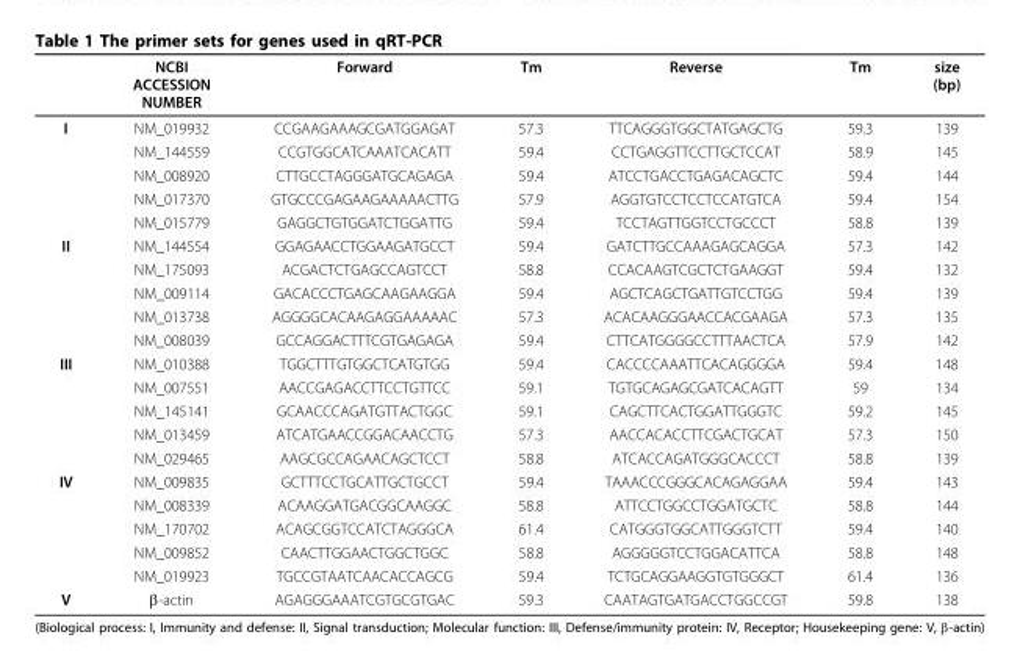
<table><thead><tr><td></td><td>NCBI ACCESSION NUMBER</td><td>Forward</td><td>Tm</td><td>Reverse</td><td>Tm</td><td>size (bp)</td></tr></thead><tbody><tr><td rowspan="5">I</td><td>NM_019932</td><td>CCGAAGAAAGCGATGGAGAT</td><td>57.3</td><td>TTCAGGGTGGCTATGAGCTG</td><td>59.3</td><td>139</td></tr><tr><td>NM_144559</td><td>CCGTGGCATCAAATCACATT</td><td>59.4</td><td>CCTGAGGTTCCTTGCTCCAT</td><td>58.9</td><td>145</td></tr><tr><td>NM_008920</td><td>CTTGCCTAGGGATGCAGAGA</td><td>59.4</td><td>ATCCTGACCTGAGACAGCTC</td><td>59.4</td><td>144</td></tr><tr><td>NM_017370</td><td>GTGCCCGAGAAGAAAAACTTG</td><td>57.9</td><td>AGGTGTCCTCCTCCATGTCA</td><td>59.4</td><td>154</td></tr><tr><td>NM_015779</td><td>GAGGCTGTGGATCTGGATTG</td><td>59.4</td><td>TCCTAGTTGGTCCTGCCCT</td><td>58.8</td><td>139</td></tr><tr><td rowspan="5">II</td><td>NM_144554</td><td>GGAGAACCTGGAAGATGCCT</td><td>59.4</td><td>GATCTTGCCAAAGAGCAGGA</td><td>57.3</td><td>142</td></tr><tr><td>NM_175093</td><td>ACGACTCTGAGCCAGTCCT</td><td>58.8</td><td>CCACAAGTCGCTCTGAAGGT</td><td>59.4</td><td>132</td></tr><tr><td>NM_009114</td><td>GACACCCTGAGCAAGAAGGA</td><td>59.4</td><td>AGCTCAGCTGATTGTCCTGG</td><td>59.4</td><td>139</td></tr><tr><td>NM_013738</td><td>AGGGGCACAAGAGGAAAAAC</td><td>57.3</td><td>ACACAAGGGAACCACGAAGA</td><td>57.3</td><td>135</td></tr><tr><td>NM_008039</td><td>GCCAGGACTTTCGTGAGAGA</td><td>59.4</td><td>CTTCATGGGGCCTTTAACTCA</td><td>57.9</td><td>142</td></tr><tr><td rowspan="5">III</td><td>NM_010388</td><td>TGGCTTTGTGGCTCATGTGG</td><td>59.4</td><td>CACCCCAAATTCACAGGGGA</td><td>59.4</td><td>148</td></tr><tr><td>NM_007551</td><td>AACCGAGACCTTCCTGTTCC</td><td>59.1</td><td>TGTGCAGAGCGATCACAGTT</td><td>59</td><td>134</td></tr><tr><td>NM_145141</td><td>GCAACCCAGATGTTACTGGC</td><td>59.1</td><td>CAGCTTCACTGGATTGGGTC</td><td>59.2</td><td>145</td></tr><tr><td>NM_013459</td><td>ATCATGAACCGGACAACCTG</td><td>57.3</td><td>AACCACACCTTCGACTGCAT</td><td>57.3</td><td>150</td></tr><tr><td>NM_029465</td><td>AAGCGCCAGAACAGCTCCT</td><td>58.8</td><td>ATCACCAGATGGGCACCCT</td><td>58.8</td><td>139</td></tr><tr><td rowspan="5">IV</td><td>NM_009835</td><td>GCTTTCCTGCATTGCTGCCT</td><td>59.4</td><td>TAAACCCGGGCACAGAGGAA</td><td>59.4</td><td>143</td></tr><tr><td>NM_008339</td><td>ACAAGGATGACGGCAAGGC</td><td>58.8</td><td>ATTCCTGGCCTGGATGCTC</td><td>58.8</td><td>144</td></tr><tr><td>NM_170702</td><td>ACAGCGGTCCATCTAGGGCA</td><td>61.4</td><td>CATGGGTGGCATTGGGTCTT</td><td>59.4</td><td>140</td></tr><tr><td>NM_009852</td><td>CAACTTGGAACTGGCTGGC</td><td>58.8</td><td>AGGGGGTCCTGGACATTCA</td><td>58.8</td><td>148</td></tr><tr><td>NM_019923</td><td>TGCCGTAATCAACACCAGCG</td><td>59.4</td><td>TCTGCAGGAAGGTGTGGGCT</td><td>61.4</td><td>136</td></tr><tr><td>V</td><td>β-actin</td><td>AGAGGGAAATCGTGCGTGAC</td><td>59.3</td><td>CAATAGTGATGACCTGGCCGT</td><td>59.8</td><td>138</td></tr></tbody></table>